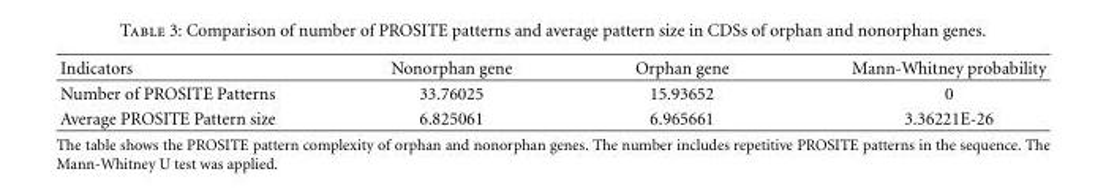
<table><thead><tr><td>Indicators</td><td>Nonorphan gene</td><td>Orphan gene</td><td>Mann-Whitney probability</td></tr></thead><tbody><tr><td>Number of PROSITE Patterns</td><td>33.76025</td><td>15.93652</td><td>0</td></tr><tr><td>Average PROSITE Pattern size</td><td>6.825061</td><td>6.965661</td><td>3.36221E-26</td></tr></tbody></table>